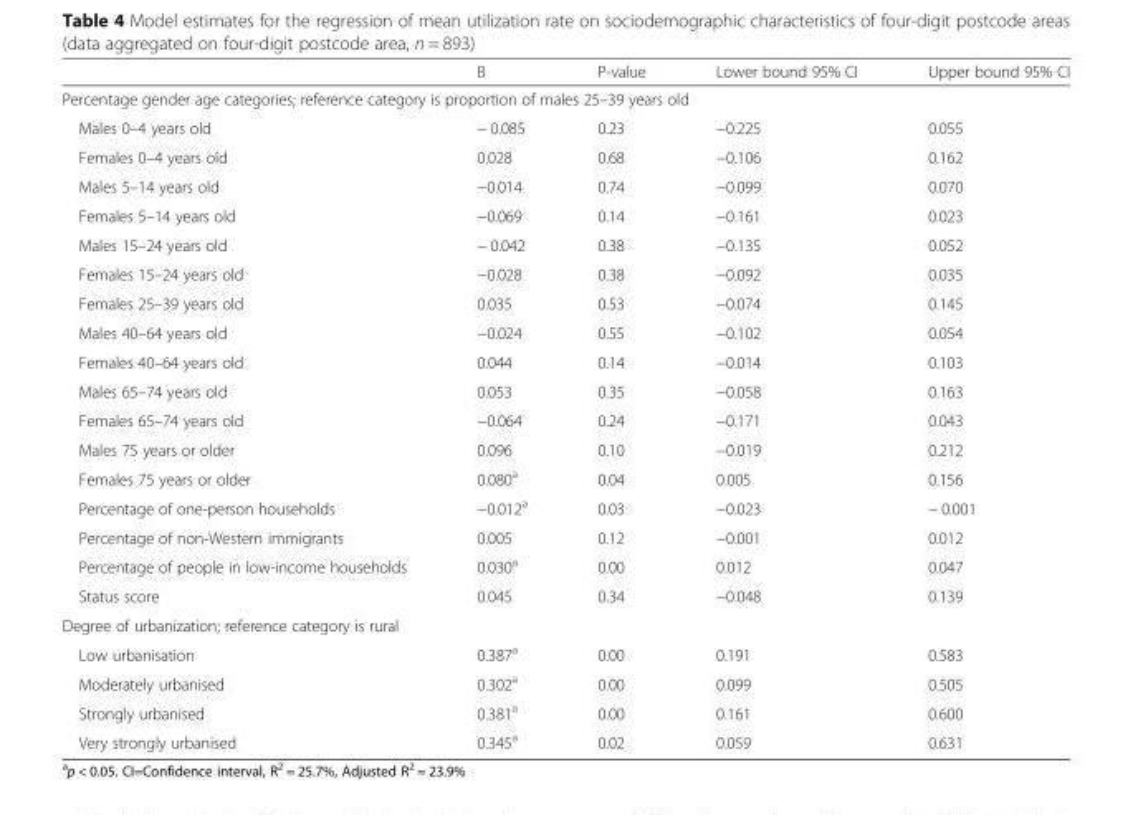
<table><thead><tr><td></td><td>B</td><td>P-value</td><td>Lower bound 95% CI</td><td>Upper bound 95% CI</td></tr></thead><tbody><tr><td colspan="5">Percentage gender age categories; reference category is proportion of males 25–39 years old</td></tr><tr><td>Males 0–4 years old</td><td>− 0.085</td><td>0.23</td><td>−0.225</td><td>0.055</td></tr><tr><td>Females 0–4 years old</td><td>0.028</td><td>0.68</td><td>−0.106</td><td>0.162</td></tr><tr><td>Males 5–14 years old</td><td>−0.014</td><td>0.74</td><td>−0.099</td><td>0.070</td></tr><tr><td>Females 5–14 years old</td><td>−0.069</td><td>0.14</td><td>−0.161</td><td>0.023</td></tr><tr><td>Males 15–24 years old</td><td>− 0.042</td><td>0.38</td><td>−0.135</td><td>0.052</td></tr><tr><td>Females 15–24 years old</td><td>−0.028</td><td>0.38</td><td>−0.092</td><td>0.035</td></tr><tr><td>Females 25–39 years old</td><td>0.035</td><td>0.53</td><td>−0.074</td><td>0.145</td></tr><tr><td>Males 40–64 years old</td><td>−0.024</td><td>0.55</td><td>−0.102</td><td>0.054</td></tr><tr><td>Females 40–64 years old</td><td>0.044</td><td>0.14</td><td>−0.014</td><td>0.103</td></tr><tr><td>Males 65–74 years old</td><td>0.053</td><td>0.35</td><td>−0.058</td><td>0.163</td></tr><tr><td>Females 65–74 years old</td><td>−0.064</td><td>0.24</td><td>−0.171</td><td>0.043</td></tr><tr><td>Males 75 years or older</td><td>0.096</td><td>0.10</td><td>−0.019</td><td>0.212</td></tr><tr><td>Females 75 years or older</td><td>0.080<sup>a</sup></td><td>0.04</td><td>0.005</td><td>0.156</td></tr><tr><td>Percentage of one-person households</td><td>−0.012<sup>a</sup></td><td>0.03</td><td>−0.023</td><td>− 0.001</td></tr><tr><td>Percentage of non-Western immigrants</td><td>0.005</td><td>0.12</td><td>−0.001</td><td>0.012</td></tr><tr><td>Percentage of people in low-income households</td><td>0.030<sup>a</sup></td><td>0.00</td><td>0.012</td><td>0.047</td></tr><tr><td>Status score</td><td>0.045</td><td>0.34</td><td>−0.048</td><td>0.139</td></tr><tr><td colspan="5">Degree of urbanization; reference category is rural</td></tr><tr><td>Low urbanisation</td><td>0.387<sup>a</sup></td><td>0.00</td><td>0.191</td><td>0.583</td></tr><tr><td>Moderately urbanised</td><td>0.302<sup>a</sup></td><td>0.00</td><td>0.099</td><td>0.505</td></tr><tr><td>Strongly urbanised</td><td>0.381<sup>a</sup></td><td>0.00</td><td>0.161</td><td>0.600</td></tr><tr><td>Very strongly urbanised</td><td>0.345<sup>a</sup></td><td>0.02</td><td>0.059</td><td>0.631</td></tr></tbody></table>